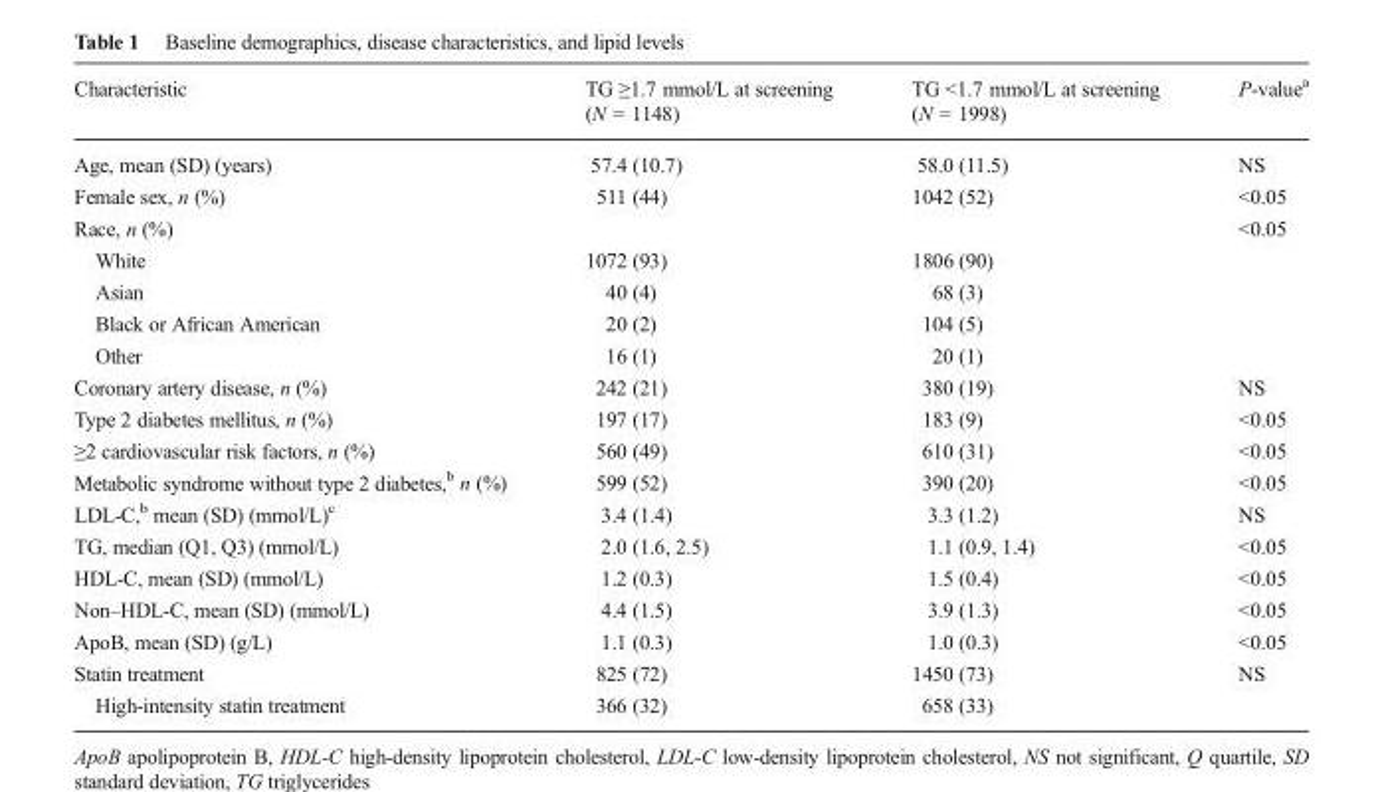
<table><thead><tr><td>Characteristic</td><td>TG ≥1.7 mmol/L at screening (N = 1148)</td><td>TG &lt;1.7 mmol/L at screening (N = 1998)</td><td>P-value<sup>a</sup></td></tr></thead><tbody><tr><td>Age, mean (SD) (years)</td><td>57.4 (10.7)</td><td>58.0 (11.5)</td><td>NS</td></tr><tr><td>Female sex, n (%)</td><td>511 (44)</td><td>1042 (52)</td><td>&lt;0.05</td></tr><tr><td colspan="3">Race, n (%)</td><td>&lt;0.05</td></tr><tr><td>White</td><td>1072 (93)</td><td>1806 (90)</td><td></td></tr><tr><td>Asian</td><td>40 (4)</td><td>68 (3)</td><td></td></tr><tr><td>Black or African American</td><td>20 (2)</td><td>104 (5)</td><td></td></tr><tr><td>Other</td><td>16 (1)</td><td>20 (1)</td><td></td></tr><tr><td>Coronary artery disease, n (%)</td><td>242 (21)</td><td>380 (19)</td><td>NS</td></tr><tr><td>Type 2 diabetes mellitus, n (%)</td><td>197 (17)</td><td>183 (9)</td><td>&lt;0.05</td></tr><tr><td>≥2 cardiovascular risk factors, n (%)</td><td>560 (49)</td><td>610 (31)</td><td>&lt;0.05</td></tr><tr><td>Metabolic syndrome without type 2 diabetes,<sup>b</sup> n (%)</td><td>599 (52)</td><td>390 (20)</td><td>&lt;0.05</td></tr><tr><td>LDL-C,<sup>b</sup> mean (SD) (mmol/L)<sup>c</sup></td><td>3.4 (1.4)</td><td>3.3 (1.2)</td><td>NS</td></tr><tr><td>TG, median (Q1, Q3) (mmol/L)</td><td>2.0 (1.6, 2.5)</td><td>1.1 (0.9, 1.4)</td><td>&lt;0.05</td></tr><tr><td>HDL-C, mean (SD) (mmol/L)</td><td>1.2 (0.3)</td><td>1.5 (0.4)</td><td>&lt;0.05</td></tr><tr><td>Non–HDL-C, mean (SD) (mmol/L)</td><td>4.4 (1.5)</td><td>3.9 (1.3)</td><td>&lt;0.05</td></tr><tr><td>ApoB, mean (SD) (g/L)</td><td>1.1 (0.3)</td><td>1.0 (0.3)</td><td>&lt;0.05</td></tr><tr><td>Statin treatment</td><td>825 (72)</td><td>1450 (73)</td><td>NS</td></tr><tr><td>High-intensity statin treatment</td><td>366 (32)</td><td>658 (33)</td><td></td></tr></tbody></table>